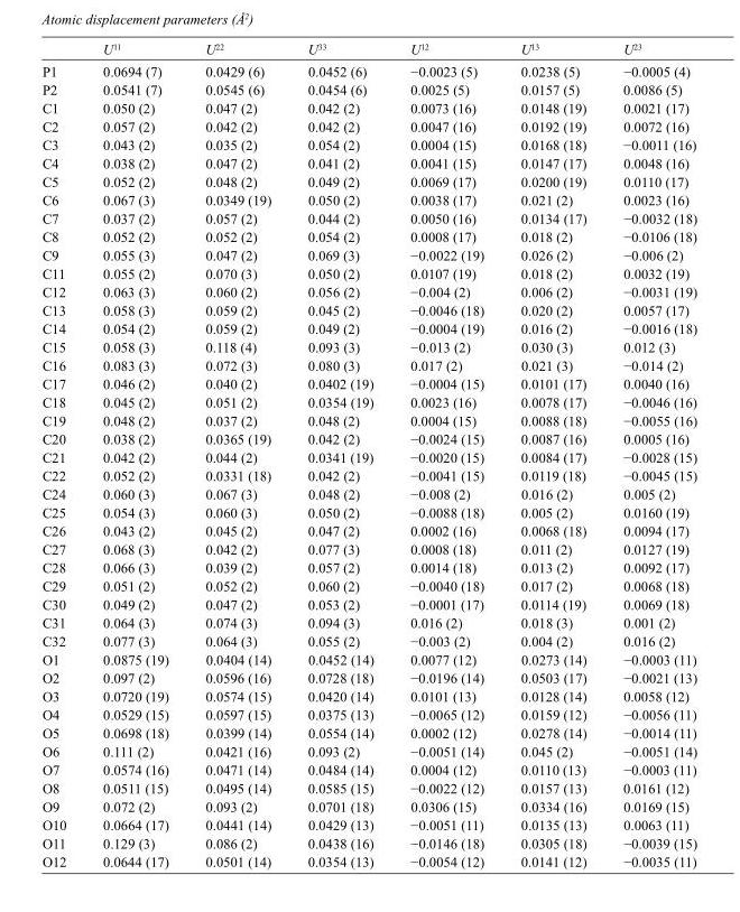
<table><thead><tr><td></td><td>U<sup>11</sup></td><td>U<sup>22</sup></td><td>U<sup>33</sup></td><td>U<sup>12</sup></td><td>U<sup>13</sup></td><td>U<sup>23</sup></td></tr></thead><tbody><tr><td>P1</td><td>0.0694 (7)</td><td>0.0429 (6)</td><td>0.0452 (6)</td><td>−0.0023 (5)</td><td>0.0238 (5)</td><td>−0.0005 (4)</td></tr><tr><td>P2</td><td>0.0541 (7)</td><td>0.0545 (6)</td><td>0.0454 (6)</td><td>0.0025 (5)</td><td>0.0157 (5)</td><td>0.0086 (5)</td></tr><tr><td>C1</td><td>0.050 (2)</td><td>0.047 (2)</td><td>0.042 (2)</td><td>0.0073 (16)</td><td>0.0148 (19)</td><td>0.0021 (17)</td></tr><tr><td>C2</td><td>0.057 (2)</td><td>0.042 (2)</td><td>0.042 (2)</td><td>0.0047 (16)</td><td>0.0192 (19)</td><td>0.0072 (16)</td></tr><tr><td>C3</td><td>0.043 (2)</td><td>0.035 (2)</td><td>0.054 (2)</td><td>0.0004 (15)</td><td>0.0168 (18)</td><td>−0.0011 (16)</td></tr><tr><td>C4</td><td>0.038 (2)</td><td>0.047 (2)</td><td>0.041 (2)</td><td>0.0041 (15)</td><td>0.0147 (17)</td><td>0.0048 (16)</td></tr><tr><td>C5</td><td>0.052 (2)</td><td>0.048 (2)</td><td>0.049 (2)</td><td>0.0069 (17)</td><td>0.0200 (19)</td><td>0.0110 (17)</td></tr><tr><td>C6</td><td>0.067 (3)</td><td>0.0349 (19)</td><td>0.050 (2)</td><td>0.0038 (17)</td><td>0.021 (2)</td><td>0.0023 (16)</td></tr><tr><td>C7</td><td>0.037 (2)</td><td>0.057 (2)</td><td>0.044 (2)</td><td>0.0050 (16)</td><td>0.0134 (17)</td><td>−0.0032 (18)</td></tr><tr><td>C8</td><td>0.052 (2)</td><td>0.052 (2)</td><td>0.054 (2)</td><td>0.0008 (17)</td><td>0.018 (2)</td><td>−0.0106 (18)</td></tr><tr><td>C9</td><td>0.055 (3)</td><td>0.047 (2)</td><td>0.069 (3)</td><td>−0.0022 (19)</td><td>0.026 (2)</td><td>−0.006 (2)</td></tr><tr><td>C11</td><td>0.055 (2)</td><td>0.070 (3)</td><td>0.050 (2)</td><td>0.0107 (19)</td><td>0.018 (2)</td><td>0.0032 (19)</td></tr><tr><td>C12</td><td>0.063 (3)</td><td>0.060 (2)</td><td>0.056 (2)</td><td>−0.004 (2)</td><td>0.006 (2)</td><td>−0.0031 (19)</td></tr><tr><td>C13</td><td>0.058 (3)</td><td>0.059 (2)</td><td>0.045 (2)</td><td>−0.0046 (18)</td><td>0.020 (2)</td><td>0.0057 (17)</td></tr><tr><td>C14</td><td>0.054 (2)</td><td>0.059 (2)</td><td>0.049 (2)</td><td>−0.0004 (19)</td><td>0.016 (2)</td><td>−0.0016 (18)</td></tr><tr><td>C15</td><td>0.058 (3)</td><td>0.118 (4)</td><td>0.093 (3)</td><td>−0.013 (2)</td><td>0.030 (3)</td><td>0.012 (3)</td></tr><tr><td>C16</td><td>0.083 (3)</td><td>0.072 (3)</td><td>0.080 (3)</td><td>0.017 (2)</td><td>0.021 (3)</td><td>−0.014 (2)</td></tr><tr><td>C17</td><td>0.046 (2)</td><td>0.040 (2)</td><td>0.0402 (19)</td><td>−0.0004 (15)</td><td>0.0101 (17)</td><td>0.0040 (16)</td></tr><tr><td>C18</td><td>0.045 (2)</td><td>0.051 (2)</td><td>0.0354 (19)</td><td>0.0023 (16)</td><td>0.0078 (17)</td><td>−0.0046 (16)</td></tr><tr><td>C19</td><td>0.048 (2)</td><td>0.037 (2)</td><td>0.048 (2)</td><td>0.0004 (15)</td><td>0.0088 (18)</td><td>−0.0055 (16)</td></tr><tr><td>C20</td><td>0.038 (2)</td><td>0.0365 (19)</td><td>0.042 (2)</td><td>−0.0024 (15)</td><td>0.0087 (16)</td><td>0.0005 (16)</td></tr><tr><td>C21</td><td>0.042 (2)</td><td>0.044 (2)</td><td>0.0341 (19)</td><td>−0.0020 (15)</td><td>0.0084 (17)</td><td>−0.0028 (15)</td></tr><tr><td>C22</td><td>0.052 (2)</td><td>0.0331 (18)</td><td>0.042 (2)</td><td>−0.0041 (15)</td><td>0.0119 (18)</td><td>−0.0045 (15)</td></tr><tr><td>C24</td><td>0.060 (3)</td><td>0.067 (3)</td><td>0.048 (2)</td><td>−0.008 (2)</td><td>0.016 (2)</td><td>0.005 (2)</td></tr><tr><td>C25</td><td>0.054 (3)</td><td>0.060 (3)</td><td>0.050 (2)</td><td>−0.0088 (18)</td><td>0.005 (2)</td><td>0.0160 (19)</td></tr><tr><td>C26</td><td>0.043 (2)</td><td>0.045 (2)</td><td>0.047 (2)</td><td>0.0002 (16)</td><td>0.0068 (18)</td><td>0.0094 (17)</td></tr><tr><td>C27</td><td>0.068 (3)</td><td>0.042 (2)</td><td>0.077 (3)</td><td>0.0008 (18)</td><td>0.011 (2)</td><td>0.0127 (19)</td></tr><tr><td>C28</td><td>0.066 (3)</td><td>0.039 (2)</td><td>0.057 (2)</td><td>0.0014 (18)</td><td>0.013 (2)</td><td>0.0092 (17)</td></tr><tr><td>C29</td><td>0.051 (2)</td><td>0.052 (2)</td><td>0.060 (2)</td><td>−0.0040 (18)</td><td>0.017 (2)</td><td>0.0068 (18)</td></tr><tr><td>C30</td><td>0.049 (2)</td><td>0.047 (2)</td><td>0.053 (2)</td><td>−0.0001 (17)</td><td>0.0114 (19)</td><td>0.0069 (18)</td></tr><tr><td>C31</td><td>0.064 (3)</td><td>0.074 (3)</td><td>0.094 (3)</td><td>0.016 (2)</td><td>0.018 (3)</td><td>0.001 (2)</td></tr><tr><td>C32</td><td>0.077 (3)</td><td>0.064 (3)</td><td>0.055 (2)</td><td>−0.003 (2)</td><td>0.004 (2)</td><td>0.016 (2)</td></tr><tr><td>O1</td><td>0.0875 (19)</td><td>0.0404 (14)</td><td>0.0452 (14)</td><td>0.0077 (12)</td><td>0.0273 (14)</td><td>−0.0003 (11)</td></tr><tr><td>O2</td><td>0.097 (2)</td><td>0.0596 (16)</td><td>0.0728 (18)</td><td>−0.0196 (14)</td><td>0.0503 (17)</td><td>−0.0021 (13)</td></tr><tr><td>O3</td><td>0.0720 (19)</td><td>0.0574 (15)</td><td>0.0420 (14)</td><td>0.0101 (13)</td><td>0.0128 (14)</td><td>0.0058 (12)</td></tr><tr><td>O4</td><td>0.0529 (15)</td><td>0.0597 (15)</td><td>0.0375 (13)</td><td>−0.0065 (12)</td><td>0.0159 (12)</td><td>−0.0056 (11)</td></tr><tr><td>O5</td><td>0.0698 (18)</td><td>0.0399 (14)</td><td>0.0554 (14)</td><td>0.0002 (12)</td><td>0.0278 (14)</td><td>−0.0014 (11)</td></tr><tr><td>O6</td><td>0.111 (2)</td><td>0.0421 (16)</td><td>0.093 (2)</td><td>−0.0051 (14)</td><td>0.045 (2)</td><td>−0.0051 (14)</td></tr><tr><td>O7</td><td>0.0574 (16)</td><td>0.0471 (14)</td><td>0.0484 (14)</td><td>0.0004 (12)</td><td>0.0110 (13)</td><td>−0.0003 (11)</td></tr><tr><td>O8</td><td>0.0511 (15)</td><td>0.0495 (14)</td><td>0.0585 (15)</td><td>−0.0022 (12)</td><td>0.0157 (13)</td><td>0.0161 (12)</td></tr><tr><td>O9</td><td>0.072 (2)</td><td>0.093 (2)</td><td>0.0701 (18)</td><td>0.0306 (15)</td><td>0.0334 (16)</td><td>0.0169 (15)</td></tr><tr><td>O10</td><td>0.0664 (17)</td><td>0.0441 (14)</td><td>0.0429 (13)</td><td>−0.0051 (11)</td><td>0.0135 (13)</td><td>0.0063 (11)</td></tr><tr><td>O11</td><td>0.129 (3)</td><td>0.086 (2)</td><td>0.0438 (16)</td><td>−0.0146 (18)</td><td>0.0305 (18)</td><td>−0.0039 (15)</td></tr><tr><td>O12</td><td>0.0644 (17)</td><td>0.0501 (14)</td><td>0.0354 (13)</td><td>−0.0054 (12)</td><td>0.0141 (12)</td><td>−0.0035 (11)</td></tr></tbody></table>